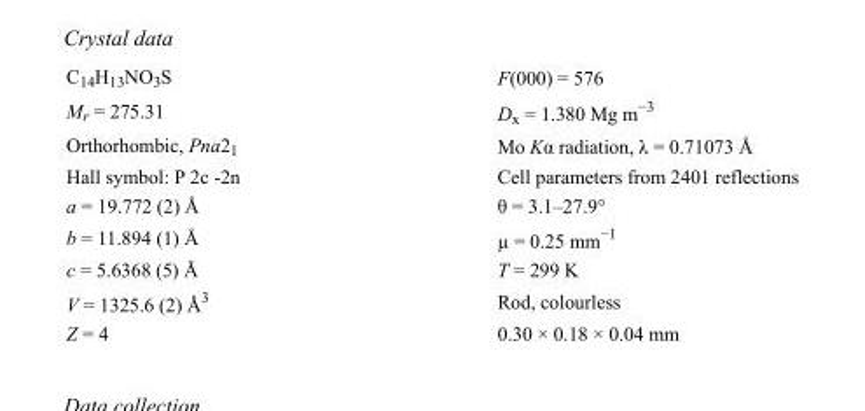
<table><tbody><tr><td>C<sub>14</sub>H<sub>13</sub>NO<sub>3</sub>S</td><td>F(000) = 576</td></tr><tr><td>M<sub>r</sub> = 275.31</td><td>D<sub>x</sub> = 1.380 Mg m<sup>−3</sup></td></tr><tr><td>Orthorhombic, Pna2<sub>1</sub></td><td>Mo Kα radiation, λ = 0.71073 Å</td></tr><tr><td>Hall symbol: P 2c -2n</td><td>Cell parameters from 2401 reflections</td></tr><tr><td>a = 19.772 (2) Å</td><td>θ = 3.1–27.9°</td></tr><tr><td>b = 11.894 (1) Å</td><td>µ = 0.25 mm<sup>−1</sup></td></tr><tr><td>c = 5.6368 (5) Å</td><td>T = 299 K</td></tr><tr><td>V = 1325.6 (2) Å<sup>3</sup></td><td>Rod, colourless</td></tr><tr><td>Z = 4</td><td>0.30 × 0.18 × 0.04 mm</td></tr></tbody></table>